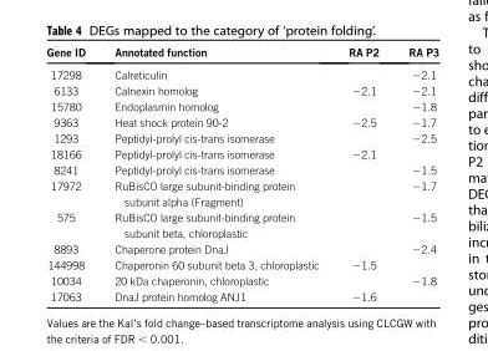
<table><thead><tr><td>Gene ID</td><td>Annotated function</td><td>RA P2</td><td>RA P3</td></tr></thead><tbody><tr><td>17298</td><td>Calreticulin</td><td></td><td>−2.1</td></tr><tr><td>6133</td><td>Calnexin homolog</td><td>−2.1</td><td>−2.1</td></tr><tr><td>15780</td><td>Endoplasmin homolog</td><td></td><td>−1.8</td></tr><tr><td>9363</td><td>Heat shock protein 90-2</td><td>−2.5</td><td>−1.7</td></tr><tr><td>1293</td><td>Peptidyl-prolyl cis-trans isomerase</td><td></td><td>−2.5</td></tr><tr><td>18166</td><td>Peptidyl-prolyl cis-trans isomerase</td><td>−2.1</td><td></td></tr><tr><td>8241</td><td>Peptidyl-prolyl cis-trans isomerase</td><td></td><td>−1.5</td></tr><tr><td>17972</td><td>RuBisCO large subunit-binding protein subunit alpha (Fragment)</td><td></td><td>−1.7</td></tr><tr><td>575</td><td>RuBisCO large subunit-binding protein subunit beta, chloroplastic</td><td></td><td>−1.5</td></tr><tr><td>8893</td><td>Chaperone protein DnaJ</td><td></td><td>−2.4</td></tr><tr><td>144998</td><td>Chaperonin 60 subunit beta 3, chloroplastic</td><td>−1.5</td><td></td></tr><tr><td>10034</td><td>20 kDa chaperonin, chloroplastic</td><td></td><td>−1.8</td></tr><tr><td>17063</td><td>DnaJ protein homolog ANJ1</td><td>−1.6</td><td></td></tr></tbody></table>